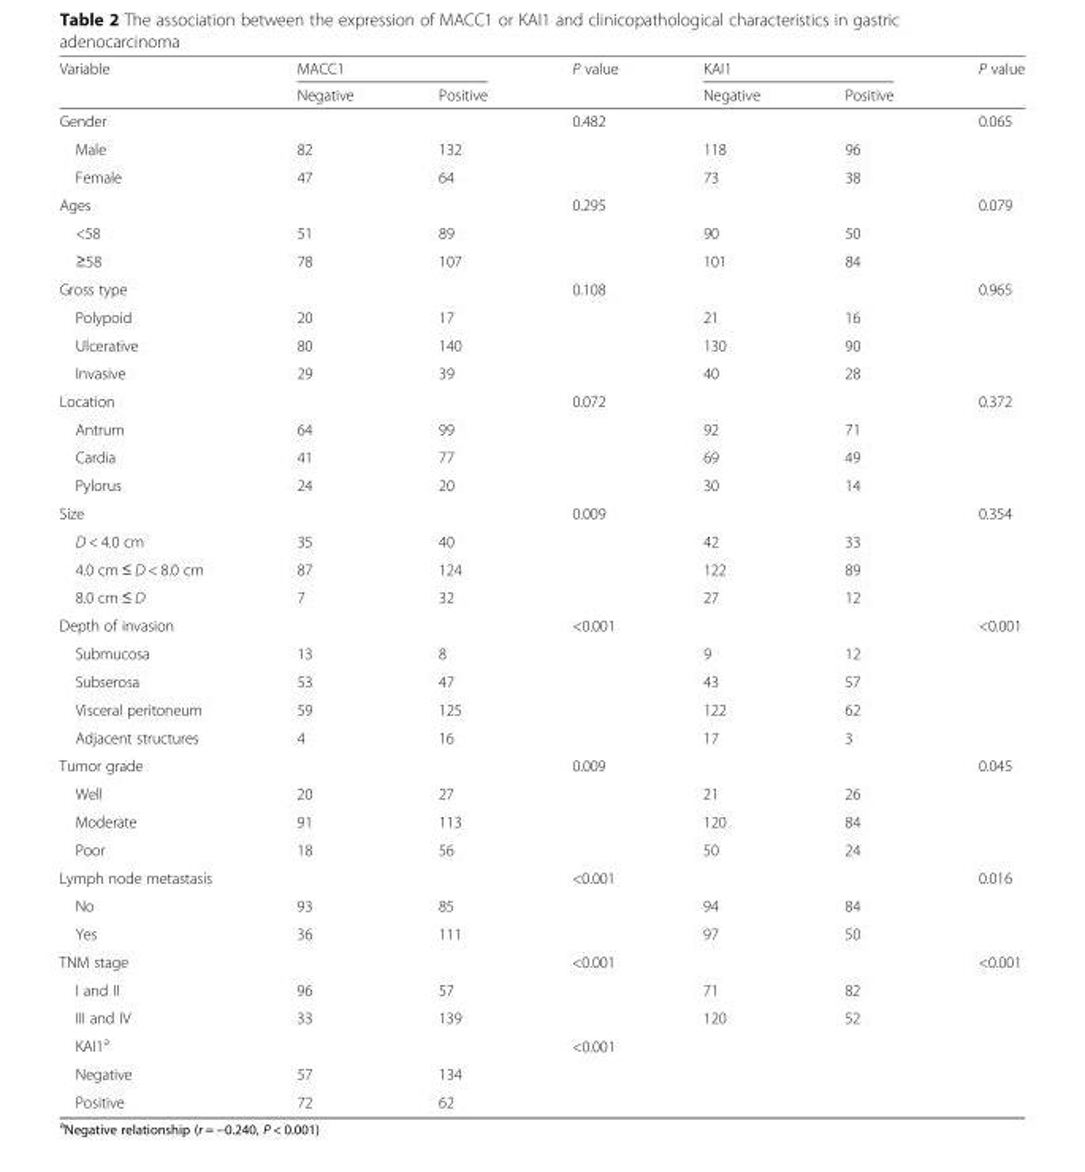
<table><thead><tr><td rowspan="2">Variable</td><td colspan="2">MACC1</td><td rowspan="2">P value</td><td colspan="2">KAI1</td><td rowspan="2">P value</td></tr><tr><td>Negative</td><td>Positive</td><td>Negative</td><td>Positive</td></tr></thead><tbody><tr><td>Gender</td><td></td><td></td><td>0.482</td><td></td><td></td><td>0.065</td></tr><tr><td>Male</td><td>82</td><td>132</td><td></td><td>118</td><td>96</td><td></td></tr><tr><td>Female</td><td>47</td><td>64</td><td></td><td>73</td><td>38</td><td></td></tr><tr><td>Ages</td><td></td><td></td><td>0.295</td><td></td><td></td><td>0.079</td></tr><tr><td>&lt;58</td><td>51</td><td>89</td><td></td><td>90</td><td>50</td><td></td></tr><tr><td>≥58</td><td>78</td><td>107</td><td></td><td>101</td><td>84</td><td></td></tr><tr><td>Gross type</td><td></td><td></td><td>0.108</td><td></td><td></td><td>0.965</td></tr><tr><td>Polypoid</td><td>20</td><td>17</td><td></td><td>21</td><td>16</td><td></td></tr><tr><td>Ulcerative</td><td>80</td><td>140</td><td></td><td>130</td><td>90</td><td></td></tr><tr><td>Invasive</td><td>29</td><td>39</td><td></td><td>40</td><td>28</td><td></td></tr><tr><td>Location</td><td></td><td></td><td>0.072</td><td></td><td></td><td>0.372</td></tr><tr><td>Antrum</td><td>64</td><td>99</td><td></td><td>92</td><td>71</td><td></td></tr><tr><td>Cardia</td><td>41</td><td>77</td><td></td><td>69</td><td>49</td><td></td></tr><tr><td>Pylorus</td><td>24</td><td>20</td><td></td><td>30</td><td>14</td><td></td></tr><tr><td>Size</td><td></td><td></td><td>0.009</td><td></td><td></td><td>0.354</td></tr><tr><td>D &lt; 4.0 cm</td><td>35</td><td>40</td><td></td><td>42</td><td>33</td><td></td></tr><tr><td>4.0 cm ≤ D &lt; 8.0 cm</td><td>87</td><td>124</td><td></td><td>122</td><td>89</td><td></td></tr><tr><td>8.0 cm ≤ D</td><td>7</td><td>32</td><td></td><td>27</td><td>12</td><td></td></tr><tr><td>Depth of invasion</td><td></td><td></td><td>&lt;0.001</td><td></td><td></td><td>&lt;0.001</td></tr><tr><td>Submucosa</td><td>13</td><td>8</td><td></td><td>9</td><td>12</td><td></td></tr><tr><td>Subserosa</td><td>53</td><td>47</td><td></td><td>43</td><td>57</td><td></td></tr><tr><td>Visceral peritoneum</td><td>59</td><td>125</td><td></td><td>122</td><td>62</td><td></td></tr><tr><td>Adjacent structures</td><td>4</td><td>16</td><td></td><td>17</td><td>3</td><td></td></tr><tr><td>Tumor grade</td><td></td><td></td><td>0.009</td><td></td><td></td><td>0.045</td></tr><tr><td>Well</td><td>20</td><td>27</td><td></td><td>21</td><td>26</td><td></td></tr><tr><td>Moderate</td><td>91</td><td>113</td><td></td><td>120</td><td>84</td><td></td></tr><tr><td>Poor</td><td>18</td><td>56</td><td></td><td>50</td><td>24</td><td></td></tr><tr><td>Lymph node metastasis</td><td></td><td></td><td>&lt;0.001</td><td></td><td></td><td>0.016</td></tr><tr><td>No</td><td>93</td><td>85</td><td></td><td>94</td><td>84</td><td></td></tr><tr><td>Yes</td><td>36</td><td>111</td><td></td><td>97</td><td>50</td><td></td></tr><tr><td>TNM stage</td><td></td><td></td><td>&lt;0.001</td><td></td><td></td><td>&lt;0.001</td></tr><tr><td>I and II</td><td>96</td><td>57</td><td></td><td>71</td><td>82</td><td></td></tr><tr><td>III and IV</td><td>33</td><td>139</td><td></td><td>120</td><td>52</td><td></td></tr><tr><td>KAI1<sup>a</sup></td><td></td><td></td><td>&lt;0.001</td><td></td><td></td><td></td></tr><tr><td>Negative</td><td>57</td><td>134</td><td></td><td></td><td></td><td></td></tr><tr><td>Positive</td><td>72</td><td>62</td><td></td><td></td><td></td><td></td></tr></tbody></table>